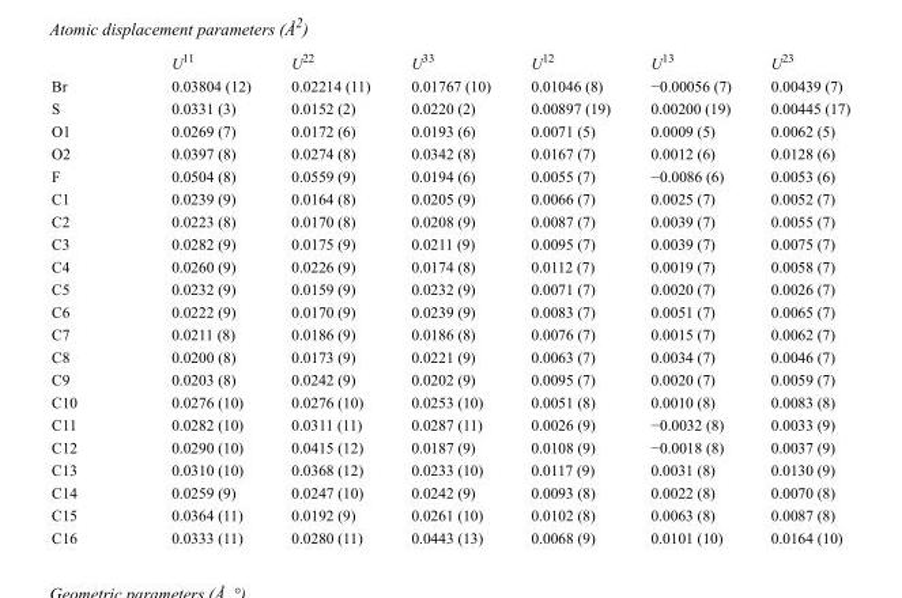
<table><thead><tr><td></td><td>U<sup>11</sup></td><td>U<sup>22</sup></td><td>U<sup>33</sup></td><td>U<sup>12</sup></td><td>U<sup>13</sup></td><td>U<sup>23</sup></td></tr></thead><tbody><tr><td>Br</td><td>0.03804 (12)</td><td>0.02214 (11)</td><td>0.01767 (10)</td><td>0.01046 (8)</td><td>−0.00056 (7)</td><td>0.00439 (7)</td></tr><tr><td>S</td><td>0.0331 (3)</td><td>0.0152 (2)</td><td>0.0220 (2)</td><td>0.00897 (19)</td><td>0.00200 (19)</td><td>0.00445 (17)</td></tr><tr><td>O1</td><td>0.0269 (7)</td><td>0.0172 (6)</td><td>0.0193 (6)</td><td>0.0071 (5)</td><td>0.0009 (5)</td><td>0.0062 (5)</td></tr><tr><td>O2</td><td>0.0397 (8)</td><td>0.0274 (8)</td><td>0.0342 (8)</td><td>0.0167 (7)</td><td>0.0012 (6)</td><td>0.0128 (6)</td></tr><tr><td>F</td><td>0.0504 (8)</td><td>0.0559 (9)</td><td>0.0194 (6)</td><td>0.0055 (7)</td><td>−0.0086 (6)</td><td>0.0053 (6)</td></tr><tr><td>C1</td><td>0.0239 (9)</td><td>0.0164 (8)</td><td>0.0205 (9)</td><td>0.0066 (7)</td><td>0.0025 (7)</td><td>0.0052 (7)</td></tr><tr><td>C2</td><td>0.0223 (8)</td><td>0.0170 (8)</td><td>0.0208 (9)</td><td>0.0087 (7)</td><td>0.0039 (7)</td><td>0.0055 (7)</td></tr><tr><td>C3</td><td>0.0282 (9)</td><td>0.0175 (9)</td><td>0.0211 (9)</td><td>0.0095 (7)</td><td>0.0039 (7)</td><td>0.0075 (7)</td></tr><tr><td>C4</td><td>0.0260 (9)</td><td>0.0226 (9)</td><td>0.0174 (8)</td><td>0.0112 (7)</td><td>0.0019 (7)</td><td>0.0058 (7)</td></tr><tr><td>C5</td><td>0.0232 (9)</td><td>0.0159 (9)</td><td>0.0232 (9)</td><td>0.0071 (7)</td><td>0.0020 (7)</td><td>0.0026 (7)</td></tr><tr><td>C6</td><td>0.0222 (9)</td><td>0.0170 (9)</td><td>0.0239 (9)</td><td>0.0083 (7)</td><td>0.0051 (7)</td><td>0.0065 (7)</td></tr><tr><td>C7</td><td>0.0211 (8)</td><td>0.0186 (9)</td><td>0.0186 (8)</td><td>0.0076 (7)</td><td>0.0015 (7)</td><td>0.0062 (7)</td></tr><tr><td>C8</td><td>0.0200 (8)</td><td>0.0173 (9)</td><td>0.0221 (9)</td><td>0.0063 (7)</td><td>0.0034 (7)</td><td>0.0046 (7)</td></tr><tr><td>C9</td><td>0.0203 (8)</td><td>0.0242 (9)</td><td>0.0202 (9)</td><td>0.0095 (7)</td><td>0.0020 (7)</td><td>0.0059 (7)</td></tr><tr><td>C10</td><td>0.0276 (10)</td><td>0.0276 (10)</td><td>0.0253 (10)</td><td>0.0051 (8)</td><td>0.0010 (8)</td><td>0.0083 (8)</td></tr><tr><td>C11</td><td>0.0282 (10)</td><td>0.0311 (11)</td><td>0.0287 (11)</td><td>0.0026 (9)</td><td>−0.0032 (8)</td><td>0.0033 (9)</td></tr><tr><td>C12</td><td>0.0290 (10)</td><td>0.0415 (12)</td><td>0.0187 (9)</td><td>0.0108 (9)</td><td>−0.0018 (8)</td><td>0.0037 (9)</td></tr><tr><td>C13</td><td>0.0310 (10)</td><td>0.0368 (12)</td><td>0.0233 (10)</td><td>0.0117 (9)</td><td>0.0031 (8)</td><td>0.0130 (9)</td></tr><tr><td>C14</td><td>0.0259 (9)</td><td>0.0247 (10)</td><td>0.0242 (9)</td><td>0.0093 (8)</td><td>0.0022 (8)</td><td>0.0070 (8)</td></tr><tr><td>C15</td><td>0.0364 (11)</td><td>0.0192 (9)</td><td>0.0261 (10)</td><td>0.0102 (8)</td><td>0.0063 (8)</td><td>0.0087 (8)</td></tr><tr><td>C16</td><td>0.0333 (11)</td><td>0.0280 (11)</td><td>0.0443 (13)</td><td>0.0068 (9)</td><td>0.0101 (10)</td><td>0.0164 (10)</td></tr></tbody></table>